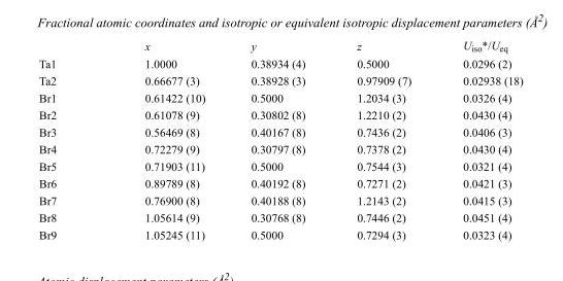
<table><thead><tr><td></td><td>x</td><td>y</td><td>z</td><td>U<sub>iso</sub>*/U<sub>eq</sub></td></tr></thead><tbody><tr><td>Ta1</td><td>1.0000</td><td>0.38934 (4)</td><td>0.5000</td><td>0.0296 (2)</td></tr><tr><td>Ta2</td><td>0.66677 (3)</td><td>0.38928 (3)</td><td>0.97909 (7)</td><td>0.02938 (18)</td></tr><tr><td>Br1</td><td>0.61422 (10)</td><td>0.5000</td><td>1.2034 (3)</td><td>0.0326 (4)</td></tr><tr><td>Br2</td><td>0.61078 (9)</td><td>0.30802 (8)</td><td>1.2210 (2)</td><td>0.0430 (4)</td></tr><tr><td>Br3</td><td>0.56469 (8)</td><td>0.40167 (8)</td><td>0.7436 (2)</td><td>0.0406 (3)</td></tr><tr><td>Br4</td><td>0.72279 (9)</td><td>0.30797 (8)</td><td>0.7378 (2)</td><td>0.0430 (4)</td></tr><tr><td>Br5</td><td>0.71903 (11)</td><td>0.5000</td><td>0.7544 (3)</td><td>0.0321 (4)</td></tr><tr><td>Br6</td><td>0.89789 (8)</td><td>0.40192 (8)</td><td>0.7271 (2)</td><td>0.0421 (3)</td></tr><tr><td>Br7</td><td>0.76900 (8)</td><td>0.40188 (8)</td><td>1.2143 (2)</td><td>0.0415 (3)</td></tr><tr><td>Br8</td><td>1.05614 (9)</td><td>0.30768 (8)</td><td>0.7446 (2)</td><td>0.0451 (4)</td></tr><tr><td>Br9</td><td>1.05245 (11)</td><td>0.5000</td><td>0.7294 (3)</td><td>0.0323 (4)</td></tr></tbody></table>